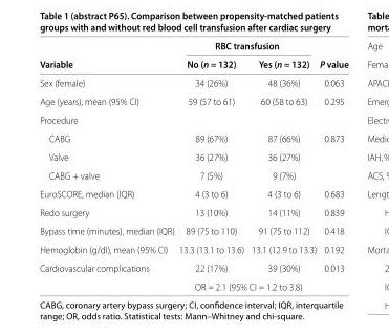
<table><thead><tr><td rowspan="2">Variable</td><td colspan="2">RBC transfusion</td><td rowspan="2">P value</td></tr><tr><td>No (n = 132)</td><td>Yes (n = 132)</td></tr></thead><tbody><tr><td>Sex (female)</td><td>34 (26%)</td><td>48 (36%)</td><td>0.063</td></tr><tr><td>Age (years), mean (95% CI)</td><td>59 (57 to 61)</td><td>60 (58 to 63)</td><td>0.295</td></tr><tr><td colspan="4">Procedure</td></tr><tr><td>CABG</td><td>89 (67%)</td><td>87 (66%)</td><td>0.873</td></tr><tr><td>Valve</td><td>36 (27%)</td><td>36 (27%)</td><td></td></tr><tr><td>CABG + valve</td><td>7 (5%)</td><td>9 (7%)</td><td></td></tr><tr><td>EuroSCORE, median (IQR)</td><td>4 (3 to 6)</td><td>4 (3 to 6)</td><td>0.683</td></tr><tr><td>Redo surgery</td><td>13 (10%)</td><td>14 (11%)</td><td>0.839</td></tr><tr><td>Bypass time (minutes), median (IQR)</td><td>89 (75 to 110)</td><td>91 (75 to 112)</td><td>0.418</td></tr><tr><td>Hemoglobin (g/dl), mean (95% CI)</td><td>13.3 (13.1 to 13.6)</td><td>13.1 (12.9 to 13.3)</td><td>0.192</td></tr><tr><td rowspan="2">Cardiovascular complications</td><td>22 (17%)</td><td>39 (30%)</td><td>0.013</td></tr><tr><td colspan="2">OR = 2.1 (95% CI = 1.2 to 3.8)</td><td></td></tr></tbody></table>